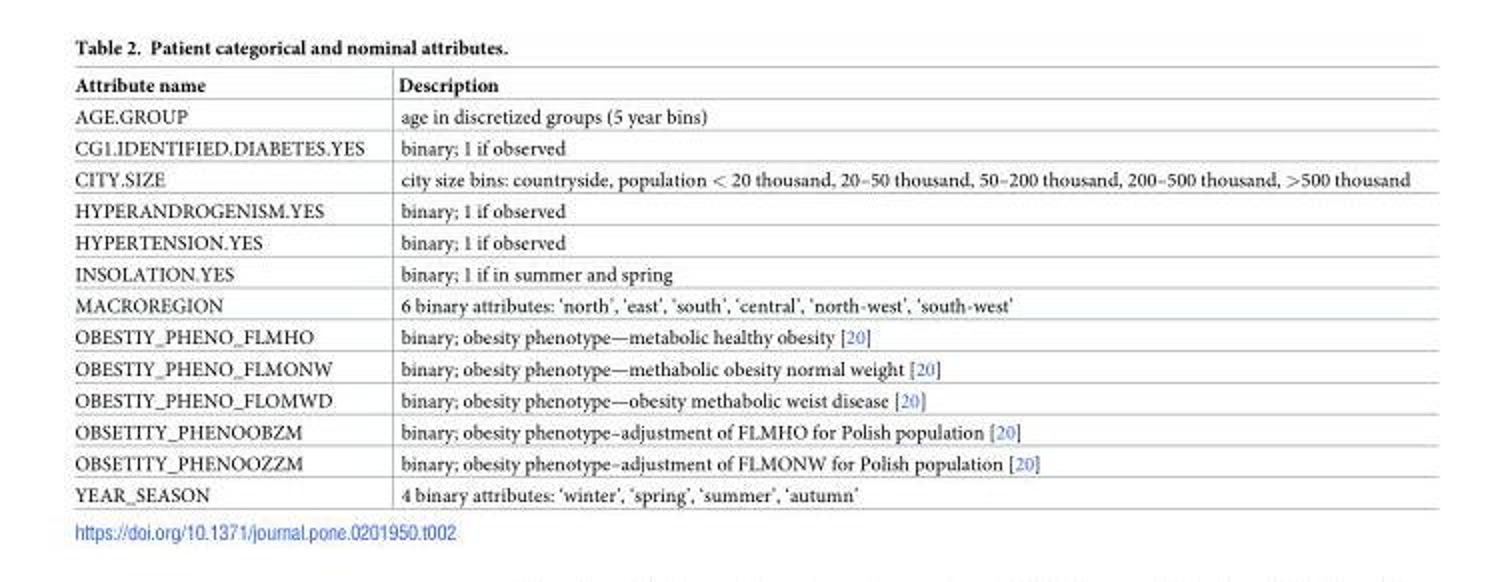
<table><thead><tr><td>Attribute name</td><td>Description</td></tr></thead><tbody><tr><td>AGE.GROUP</td><td>age in discretized groups (5 year bins)</td></tr><tr><td>CG1.IDENTIFIED.DIABETES.YES</td><td>binary; 1 if observed</td></tr><tr><td>CITY.SIZE</td><td>city size bins: countryside, population &lt; 20 thousand, 20–50 thousand, 50–200 thousand, 200–500 thousand, &gt;500 thousand</td></tr><tr><td>HYPERANDROGENISM.YES</td><td>binary; 1 if observed</td></tr><tr><td>HYPERTENSION.YES</td><td>binary; 1 if observed</td></tr><tr><td>INSOLATION.YES</td><td>binary; 1 if in summer and spring</td></tr><tr><td>MACROREGION</td><td>6 binary attributes: ‘north’, ‘east’, ‘south’, ‘central’, ‘north-west’, ‘south-west’</td></tr><tr><td>OBESTIY_PHENO_FLMHO</td><td>binary; obesity phenotype—metabolic healthy obesity [20]</td></tr><tr><td>OBESTIY_PHENO_FLMONW</td><td>binary; obesity phenotype—methabolic obesity normal weight [20]</td></tr><tr><td>OBESTIY_PHENO_FLOMWD</td><td>binary; obesity phenotype—obesity methabolic weist disease [20]</td></tr><tr><td>OBSETITY_PHENOOBZM</td><td>binary; obesity phenotype–adjustment of FLMHO for Polish population [20]</td></tr><tr><td>OBSETITY_PHENOOZZM</td><td>binary; obesity phenotype–adjustment of FLMONW for Polish population [20]</td></tr><tr><td>YEAR_SEASON</td><td>4 binary attributes: ‘winter’, ‘spring’, ‘summer’, ‘autumn’</td></tr></tbody></table>